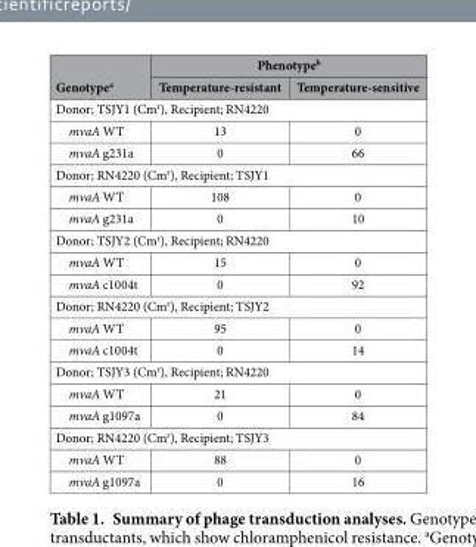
<table><thead><tr><td rowspan="2">Genotype<sup>a</sup></td><td colspan="2">Phenotype<sup>b</sup></td></tr><tr><td>Temperature-resistant</td><td>Temperature-sensitive</td></tr></thead><tbody><tr><td colspan="3">Donor; TSJY1 (Cm<sup>r</sup>), Recipient; RN4220</td></tr><tr><td>mvaA WT</td><td>13</td><td>0</td></tr><tr><td>mvaA g231a</td><td>0</td><td>66</td></tr><tr><td colspan="3">Donor; RN4220 (Cm<sup>r</sup>), Recipient; TSJY1</td></tr><tr><td>mvaA WT</td><td>108</td><td>0</td></tr><tr><td>mvaA g231a</td><td>0</td><td>10</td></tr><tr><td colspan="3">Donor; TSJY2 (Cm<sup>r</sup>), Recipient; RN4220</td></tr><tr><td>mvaA WT</td><td>15</td><td>0</td></tr><tr><td>mvaA c1004t</td><td>0</td><td>92</td></tr><tr><td colspan="3">Donor; RN4220 (Cm<sup>r</sup>), Recipient; TSJY2</td></tr><tr><td>mvaA WT</td><td>95</td><td>0</td></tr><tr><td>mvaA c1004t</td><td>0</td><td>14</td></tr><tr><td colspan="3">Donor; TSJY3 (Cm<sup>r</sup>), Recipient; RN4220</td></tr><tr><td>mvaA WT</td><td>21</td><td>0</td></tr><tr><td>mvaA g1097a</td><td>0</td><td>84</td></tr><tr><td colspan="3">Donor; RN4220 (Cm<sup>r</sup>), Recipient; TSJY3</td></tr><tr><td>mvaA WT</td><td>88</td><td>0</td></tr><tr><td>mvaA g1097a</td><td>0</td><td>16</td></tr></tbody></table>